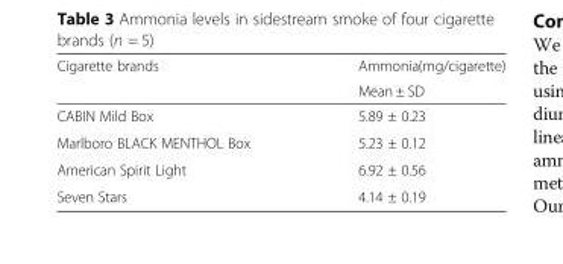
<table><thead><tr><td rowspan="2">Cigarette brands</td><td rowspan="2">Ammonia(mg/cigarette) Mean ± SD</td></tr><tr></tr></thead><tbody><tr><td>CABIN Mild Box</td><td>5.89 ± 0.23</td></tr><tr><td>Marlboro BLACK MENTHOL Box</td><td>5.23 ± 0.12</td></tr><tr><td>American Spirit Light</td><td>6.92 ± 0.56</td></tr><tr><td>Seven Stars</td><td>4.14 ± 0.19</td></tr></tbody></table>